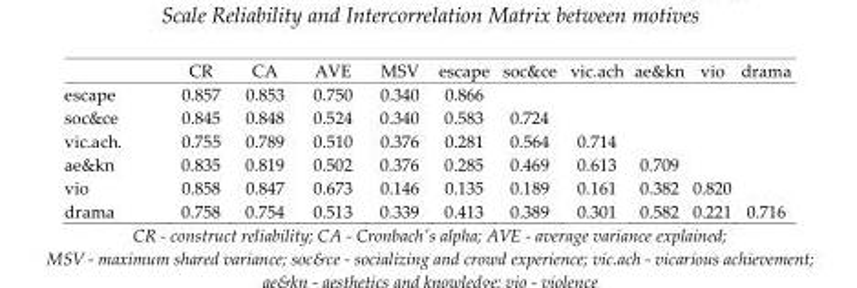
<table><thead><tr><td></td><td>CR</td><td>CA</td><td>AVE</td><td>MSV</td><td>escape</td><td>soc&amp;ce</td><td>vic.ach</td><td>ae&amp;kn</td><td>vio</td><td>drama</td></tr></thead><tbody><tr><td>escape</td><td>0.857</td><td>0.853</td><td>0.750</td><td>0.340</td><td>0.866</td><td></td><td></td><td></td><td></td><td></td></tr><tr><td>soc&amp;ce</td><td>0.845</td><td>0.848</td><td>0.524</td><td>0.340</td><td>0.583</td><td>0.724</td><td></td><td></td><td></td><td></td></tr><tr><td>vic.ach.</td><td>0.755</td><td>0.789</td><td>0.510</td><td>0.376</td><td>0.281</td><td>0.564</td><td>0.714</td><td></td><td></td><td></td></tr><tr><td>ae&amp;kn</td><td>0.835</td><td>0.819</td><td>0.502</td><td>0.376</td><td>0.285</td><td>0.469</td><td>0.613</td><td>0.709</td><td></td><td></td></tr><tr><td>vio</td><td>0.858</td><td>0.847</td><td>0.673</td><td>0.146</td><td>0.135</td><td>0.189</td><td>0.161</td><td>0.382</td><td>0.820</td><td></td></tr><tr><td>drama</td><td>0.758</td><td>0.754</td><td>0.513</td><td>0.339</td><td>0.413</td><td>0.389</td><td>0.301</td><td>0.582</td><td>0.221</td><td>0.716</td></tr></tbody></table>